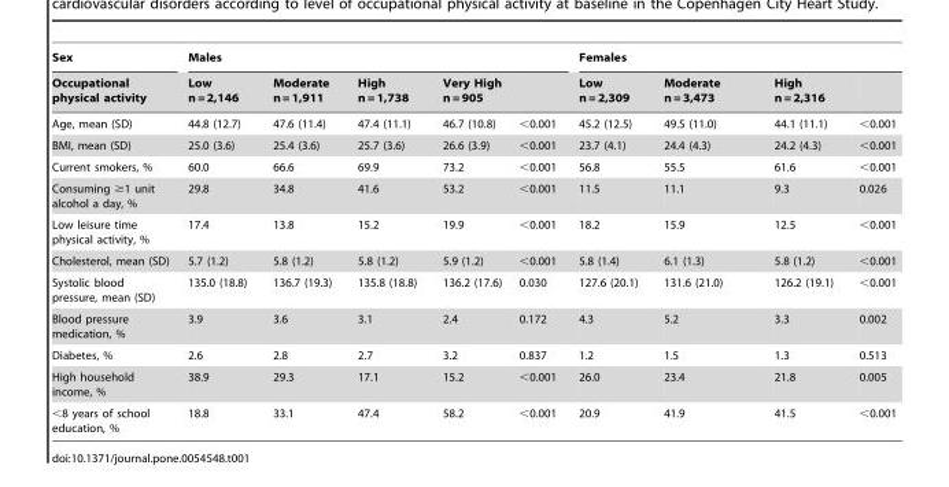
<table><thead><tr><td rowspan="2">Sex Occupational physical activity</td><td colspan="5">Males</td><td colspan="4">Females</td></tr><tr><td>Low n = 2,146</td><td>Moderate n = 1,911</td><td>High n = 1,738</td><td>Very High n = 905</td><td></td><td>Low n = 2,309</td><td>Moderate n = 3,473</td><td>High n = 2,316</td><td></td></tr></thead><tbody><tr><td>Age, mean (SD)</td><td>44.8 (12.7)</td><td>47.6 (11.4)</td><td>47.4 (11.1)</td><td>46.7 (10.8)</td><td>&lt;0.001</td><td>45.2 (12.5)</td><td>49.5 (11.0)</td><td>44.1 (11.1)</td><td>&lt;0.001</td></tr><tr><td>BMI, mean (SD)</td><td>25.0 (3.6)</td><td>25.4 (3.6)</td><td>25.7 (3.6)</td><td>26.6 (3.9)</td><td>&lt;0.001</td><td>23.7 (4.1)</td><td>24.4 (4.3)</td><td>24.2 (4.3)</td><td>&lt;0.001</td></tr><tr><td>Current smokers, %</td><td>60.0</td><td>66.6</td><td>69.9</td><td>73.2</td><td>&lt;0.001</td><td>56.8</td><td>55.5</td><td>61.6</td><td>&lt;0.001</td></tr><tr><td>Consuming ≥1 unit alcohol a day, %</td><td>29.8</td><td>34.8</td><td>41.6</td><td>53.2</td><td>&lt;0.001</td><td>11.5</td><td>11.1</td><td>9.3</td><td>0.026</td></tr><tr><td>Low leisure time physical activity, %</td><td>17.4</td><td>13.8</td><td>15.2</td><td>19.9</td><td>&lt;0.001</td><td>18.2</td><td>15.9</td><td>12.5</td><td>&lt;0.001</td></tr><tr><td>Cholesterol, mean (SD)</td><td>5.7 (1.2)</td><td>5.8 (1.2)</td><td>5.8 (1.2)</td><td>5.9 (1.2)</td><td>&lt;0.001</td><td>5.8 (1.4)</td><td>6.1 (1.3)</td><td>5.8 (1.2)</td><td>&lt;0.001</td></tr><tr><td>Systolic blood pressure, mean (SD)</td><td>135.0 (18.8)</td><td>136.7 (19.3)</td><td>135.8 (18.8)</td><td>136.2 (17.6)</td><td>0.030</td><td>127.6 (20.1)</td><td>131.6 (21.0)</td><td>126.2 (19.1)</td><td>&lt;0.001</td></tr><tr><td>Blood pressure medication, %</td><td>3.9</td><td>3.6</td><td>3.1</td><td>2.4</td><td>0.172</td><td>4.3</td><td>5.2</td><td>3.3</td><td>0.002</td></tr><tr><td>Diabetes, %</td><td>2.6</td><td>2.8</td><td>2.7</td><td>3.2</td><td>0.837</td><td>1.2</td><td>1.5</td><td>1.3</td><td>0.513</td></tr><tr><td>High household income, %</td><td>38.9</td><td>29.3</td><td>17.1</td><td>15.2</td><td>&lt;0.001</td><td>26.0</td><td>23.4</td><td>21.8</td><td>0.005</td></tr><tr><td>&lt;8 years of school education, %</td><td>18.8</td><td>33.1</td><td>47.4</td><td>58.2</td><td>&lt;0.001</td><td>20.9</td><td>41.9</td><td>41.5</td><td>&lt;0.001</td></tr></tbody></table>